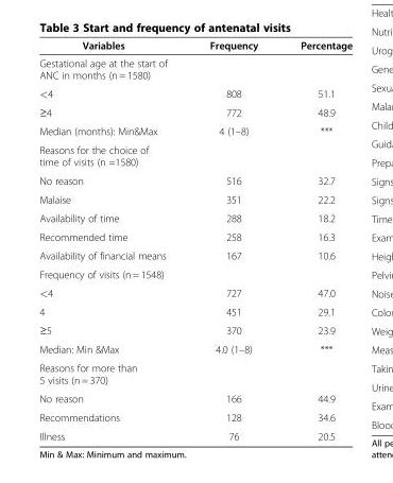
<table><thead><tr><td>Variables</td><td>Frequency</td><td>Percentage</td></tr></thead><tbody><tr><td colspan="3">Gestational age at the start of ANC in months (n = 1580)</td></tr><tr><td>&lt;4</td><td>808</td><td>51.1</td></tr><tr><td>≥4</td><td>772</td><td>48.9</td></tr><tr><td>Median (months): Min&amp;Max</td><td>4 (1–8)</td><td>***</td></tr><tr><td colspan="3">Reasons for the choice of time of visits (n =1580)</td></tr><tr><td>No reason</td><td>516</td><td>32.7</td></tr><tr><td>Malaise</td><td>351</td><td>22.2</td></tr><tr><td>Availability of time</td><td>288</td><td>18.2</td></tr><tr><td>Recommended time</td><td>258</td><td>16.3</td></tr><tr><td>Availability of financial means</td><td>167</td><td>10.6</td></tr><tr><td colspan="3">Frequency of visits (n = 1548)</td></tr><tr><td>&lt;4</td><td>727</td><td>47.0</td></tr><tr><td>4</td><td>451</td><td>29.1</td></tr><tr><td>≥5</td><td>370</td><td>23.9</td></tr><tr><td>Median: Min &amp;Max</td><td>4.0 (1–8)</td><td>***</td></tr><tr><td colspan="3">Reasons for more than 5 visits (n = 370)</td></tr><tr><td>No reason</td><td>166</td><td>44.9</td></tr><tr><td>Recommendations</td><td>128</td><td>34.6</td></tr><tr><td>Illness</td><td>76</td><td>20.5</td></tr></tbody></table>